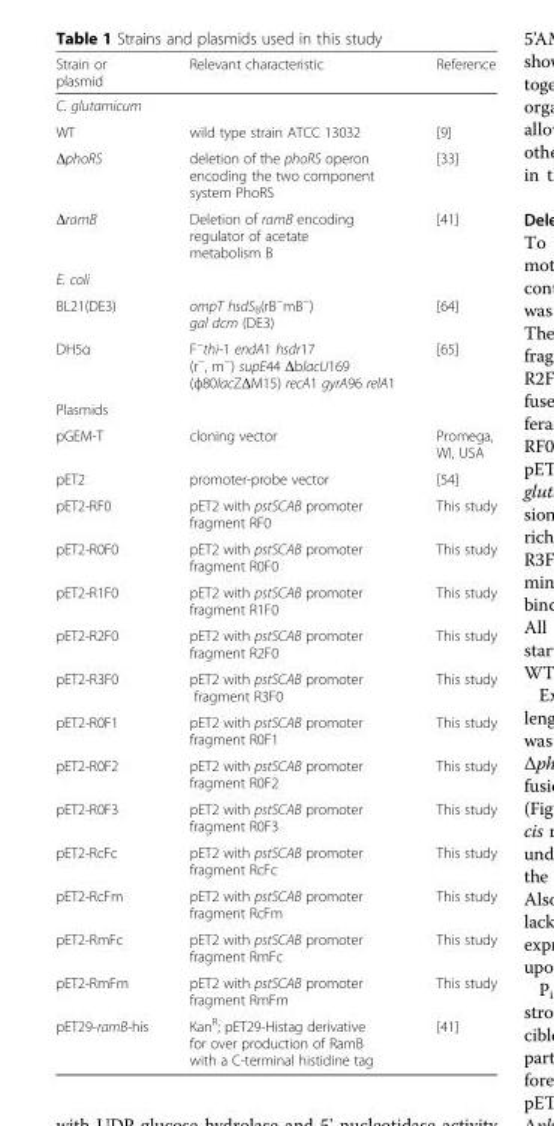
<table><thead><tr><td>Strain or plasmid</td><td>Relevant characteristic</td><td>Reference</td></tr></thead><tbody><tr><td colspan="3">C. glutamicum</td></tr><tr><td>WT</td><td>wild type strain ATCC 13032</td><td>[9]</td></tr><tr><td>ΔphoRS</td><td>deletion of the phoRS operon encoding the two component system PhoRS</td><td>[33]</td></tr><tr><td>ΔramB</td><td>Deletion of ramB encoding regulator of acetate metabolism B</td><td>[41]</td></tr><tr><td colspan="3">E. coli</td></tr><tr><td>BL21(DE3)</td><td>ompT hsdS<sub>B</sub>(rB<sup>−</sup>mB<sup>−</sup>) gal dcm (DE3)</td><td>[64]</td></tr><tr><td>DH5α</td><td>F<sup>−</sup>thi-1 endA1 hsdr17 (r<sup>−</sup>, m<sup>−</sup>) supE44 ΔblacU169 (ф80lacZΔM15) recA1 gyrA96 relA1</td><td>[65]</td></tr><tr><td colspan="3">Plasmids</td></tr><tr><td>pGEM-T</td><td>cloning vector</td><td>Promega, WI, USA</td></tr><tr><td>pET2</td><td>promoter-probe vector</td><td>[54]</td></tr><tr><td>pET2-RF0</td><td>pET2 with pstSCAB promoter fragment RF0</td><td>This study</td></tr><tr><td>pET2-R0F0</td><td>pET2 with pstSCAB promoter fragment R0F0</td><td>This study</td></tr><tr><td>pET2-R1F0</td><td>pET2 with pstSCAB promoter fragment R1F0</td><td>This study</td></tr><tr><td>pET2-R2F0</td><td>pET2 with pstSCAB promoter fragment R2F0</td><td>This study</td></tr><tr><td>pET2-R3F0</td><td>pET2 with pstSCAB promoter fragment R3F0</td><td>This study</td></tr><tr><td>pET2-R0F1</td><td>pET2 with pstSCAB promoter fragment R0F1</td><td>This study</td></tr><tr><td>pET2-R0F2</td><td>pET2 with pstSCAB promoter fragment R0F2</td><td>This study</td></tr><tr><td>pET2-R0F3</td><td>pET2 with pstSCAB promoter fragment R0F3</td><td>This study</td></tr><tr><td>pET2-RcFc</td><td>pET2 with pstSCAB promoter fragment RcFc</td><td>This study</td></tr><tr><td>pET2-RcFm</td><td>pET2 with pstSCAB promoter fragment RcFm</td><td>This study</td></tr><tr><td>pET2-RmFc</td><td>pET2 with pstSCAB promoter fragment RmFc</td><td>This study</td></tr><tr><td>pET2-RmFm</td><td>pET2 with pstSCAB promoter fragment RmFm</td><td>This study</td></tr><tr><td>pET29-ramB-his</td><td>Kan<sup>R</sup>; pET29-Histag derivative for over production of RamB with a C-terminal histidine tag</td><td>[41]</td></tr></tbody></table>